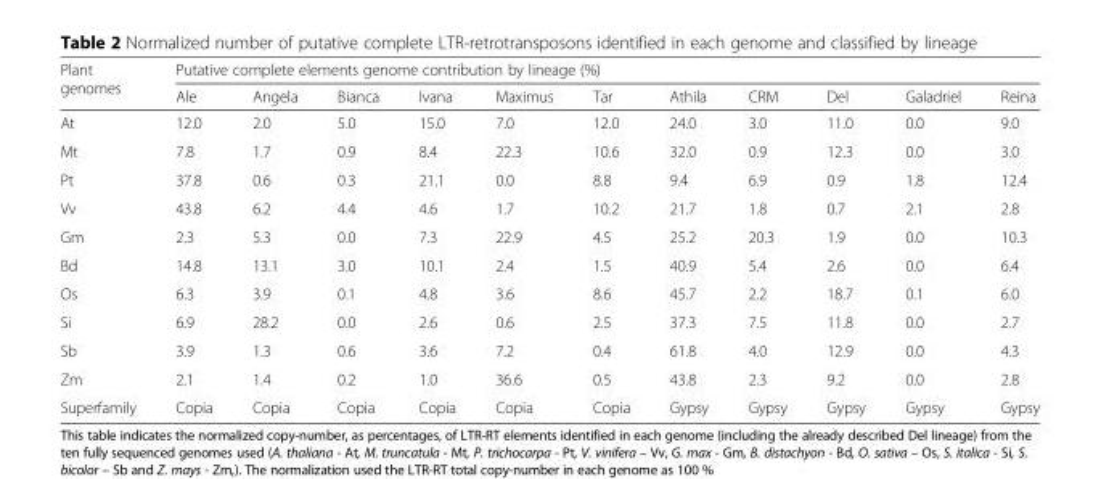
<table><thead><tr><td rowspan="2">Plant genomes</td><td colspan="11">Putative complete elements genome contribution by lineage (%)</td></tr><tr><td>Ale</td><td>Angela</td><td>Bianca</td><td>Ivana</td><td>Maximus</td><td>Tar</td><td>Athila</td><td>CRM</td><td>Del</td><td>Galadriel</td><td>Reina</td></tr></thead><tbody><tr><td>At</td><td>12.0</td><td>2.0</td><td>5.0</td><td>15.0</td><td>7.0</td><td>12.0</td><td>24.0</td><td>3.0</td><td>11.0</td><td>0.0</td><td>9.0</td></tr><tr><td>Mt</td><td>7.8</td><td>1.7</td><td>0.9</td><td>8.4</td><td>22.3</td><td>10.6</td><td>32.0</td><td>0.9</td><td>12.3</td><td>0.0</td><td>3.0</td></tr><tr><td>Pt</td><td>37.8</td><td>0.6</td><td>0.3</td><td>21.1</td><td>0.0</td><td>8.8</td><td>9.4</td><td>6.9</td><td>0.9</td><td>1.8</td><td>12.4</td></tr><tr><td>Vv</td><td>43.8</td><td>6.2</td><td>4.4</td><td>4.6</td><td>1.7</td><td>10.2</td><td>21.7</td><td>1.8</td><td>0.7</td><td>2.1</td><td>2.8</td></tr><tr><td>Gm</td><td>2.3</td><td>5.3</td><td>0.0</td><td>7.3</td><td>22.9</td><td>4.5</td><td>25.2</td><td>20.3</td><td>1.9</td><td>0.0</td><td>10.3</td></tr><tr><td>Bd</td><td>14.8</td><td>13.1</td><td>3.0</td><td>10.1</td><td>2.4</td><td>1.5</td><td>40.9</td><td>5.4</td><td>2.6</td><td>0.0</td><td>6.4</td></tr><tr><td>Os</td><td>6.3</td><td>3.9</td><td>0.1</td><td>4.8</td><td>3.6</td><td>8.6</td><td>45.7</td><td>2.2</td><td>18.7</td><td>0.1</td><td>6.0</td></tr><tr><td>Si</td><td>6.9</td><td>28.2</td><td>0.0</td><td>2.6</td><td>0.6</td><td>2.5</td><td>37.3</td><td>7.5</td><td>11.8</td><td>0.0</td><td>2.7</td></tr><tr><td>Sb</td><td>3.9</td><td>1.3</td><td>0.6</td><td>3.6</td><td>7.2</td><td>0.4</td><td>61.8</td><td>4.0</td><td>12.9</td><td>0.0</td><td>4.3</td></tr><tr><td>Zm</td><td>2.1</td><td>1.4</td><td>0.2</td><td>1.0</td><td>36.6</td><td>0.5</td><td>43.8</td><td>2.3</td><td>9.2</td><td>0.0</td><td>2.8</td></tr><tr><td>Superfamily</td><td>Copia</td><td>Copia</td><td>Copia</td><td>Copia</td><td>Copia</td><td>Copia</td><td>Gypsy</td><td>Gypsy</td><td>Gypsy</td><td>Gypsy</td><td>Gypsy</td></tr></tbody></table>